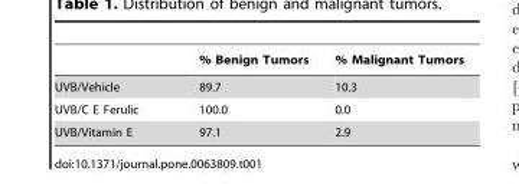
<table><thead><tr><td></td><td>% Benign Tumors</td><td>% Malignant Tumors</td></tr></thead><tbody><tr><td>UVB/Vehicle</td><td>89.7</td><td>10.3</td></tr><tr><td>UVB/C E Ferulic</td><td>100.0</td><td>0.0</td></tr><tr><td>UVB/Vitamin E</td><td>97.1</td><td>2.9</td></tr></tbody></table>